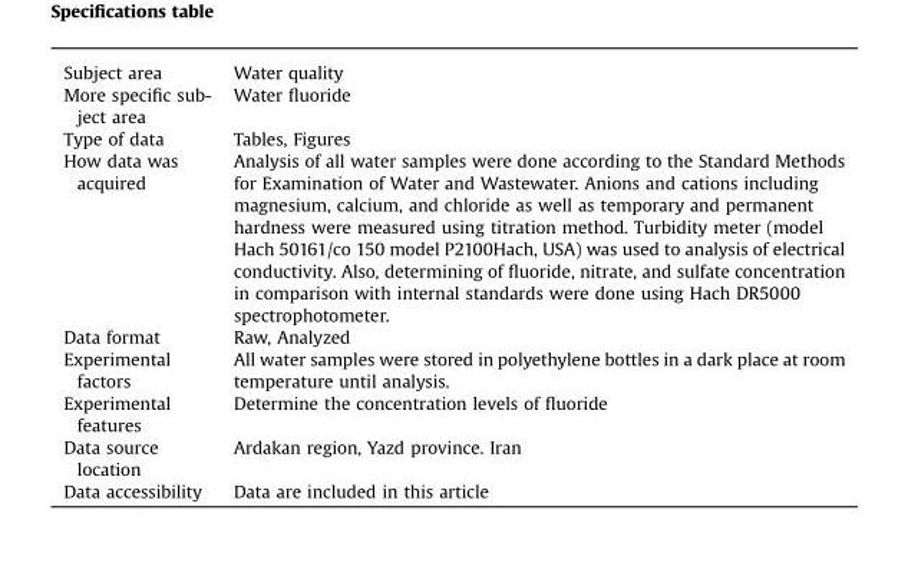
<table><tbody><tr><td>Subject area</td><td>Water quality</td></tr><tr><td>More specific sub- ject area</td><td>Water fluoride</td></tr><tr><td>Type of data</td><td>Tables, Figures</td></tr><tr><td>How data was acquired</td><td>Analysis of all water samples were done according to the Standard Methods for Examination of Water and Wastewater. Anions and cations including magnesium, calcium, and chloride as well as temporary and permanent hardness were measured using titration method. Turbidity meter (model Hach 50161/co 150 model P2100Hach, USA) was used to analysis of electrical conductivity. Also, determining of fluoride, nitrate, and sulfate concentration in comparison with internal standards were done using Hach DR5000 spectrophotometer.</td></tr><tr><td>Data format</td><td>Raw, Analyzed</td></tr><tr><td>Experimental factors</td><td>All water samples were stored in polyethylene bottles in a dark place at room temperature until analysis.</td></tr><tr><td>Experimental features</td><td>Determine the concentration levels of fluoride</td></tr><tr><td>Data source location</td><td>Ardakan region, Yazd province. Iran</td></tr><tr><td>Data accessibility</td><td>Data are included in this article</td></tr></tbody></table>